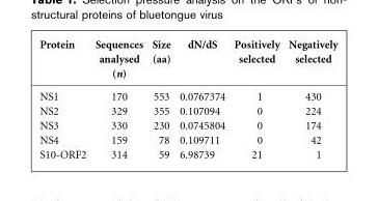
<table><thead><tr><td>Protein</td><td>Sequences analysed (n)</td><td>Size (aa)</td><td>dN/dS</td><td>Positively selected</td><td>Negatively selected</td></tr></thead><tbody><tr><td>NS1</td><td>170</td><td>553</td><td>0.0767374</td><td>1</td><td>430</td></tr><tr><td>NS2</td><td>329</td><td>355</td><td>0.107094</td><td>0</td><td>224</td></tr><tr><td>NS3</td><td>330</td><td>230</td><td>0.0745804</td><td>0</td><td>174</td></tr><tr><td>NS4</td><td>159</td><td>78</td><td>0.109711</td><td>0</td><td>42</td></tr><tr><td>S10-ORF2</td><td>314</td><td>59</td><td>6.98739</td><td>21</td><td>1</td></tr></tbody></table>